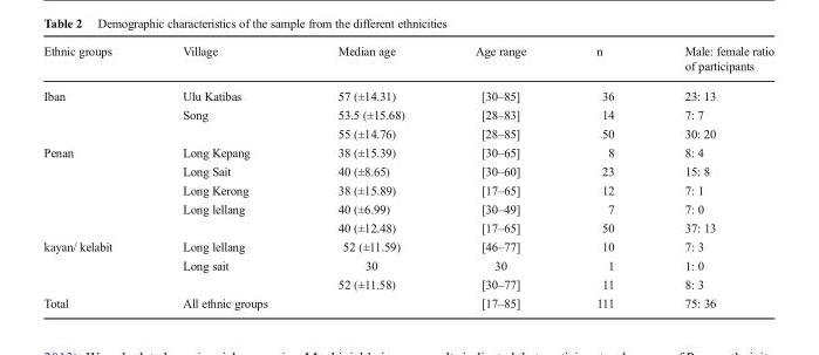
<table><thead><tr><td>Ethnic groups</td><td>Village</td><td>Median age</td><td>Age range</td><td>n</td><td>Male: female ratio of participants</td></tr></thead><tbody><tr><td rowspan="3">Iban</td><td>Ulu Katibas</td><td>57 (±14.31)</td><td>[30–85]</td><td>36</td><td>23: 13</td></tr><tr><td rowspan="2">Song</td><td>53.5 (±15.68)</td><td>[28–83]</td><td>14</td><td>7: 7</td></tr><tr><td>55 (±14.76)</td><td>[28–85]</td><td>50</td><td>30: 20</td></tr><tr><td rowspan="5">Penan</td><td>Long Kepang</td><td>38 (±15.39)</td><td>[30–65]</td><td>8</td><td>8: 4</td></tr><tr><td>Long Sait</td><td>40 (±8.65)</td><td>[30–60]</td><td>23</td><td>15: 8</td></tr><tr><td>Long Kerong</td><td>38 (±15.89)</td><td>[17–65]</td><td>12</td><td>7: 1</td></tr><tr><td rowspan="2">Long lellang</td><td>40 (±6.99)</td><td>[30–49]</td><td>7</td><td>7: 0</td></tr><tr><td>40 (±12.48)</td><td>[17–65]</td><td>50</td><td>37: 13</td></tr><tr><td rowspan="3">kayan/ kelabit</td><td>Long lellang</td><td>52 (±11.59)</td><td>[46–77]</td><td>10</td><td>7: 3</td></tr><tr><td rowspan="2">Long sait</td><td>30</td><td>30</td><td>1</td><td>1: 0</td></tr><tr><td>52 (±11.58)</td><td>[30–77]</td><td>11</td><td>8: 3</td></tr><tr><td>Total</td><td>All ethnic groups</td><td></td><td>[17–85]</td><td>111</td><td>75: 36</td></tr></tbody></table>